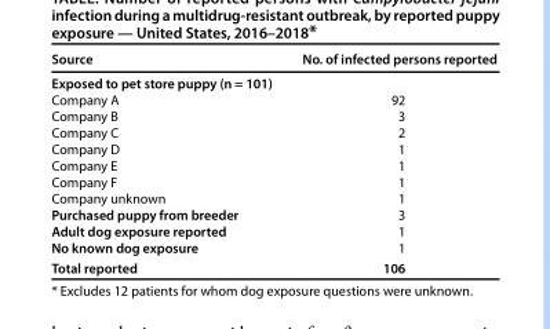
<table><thead><tr><td>Source</td><td>No. of infected persons reported</td></tr></thead><tbody><tr><td colspan="2">Exposed to pet store puppy (n = 101)</td></tr><tr><td>Company A</td><td>92</td></tr><tr><td>Company B</td><td>3</td></tr><tr><td>Company C</td><td>2</td></tr><tr><td>Company D</td><td>1</td></tr><tr><td>Company E</td><td>1</td></tr><tr><td>Company F</td><td>1</td></tr><tr><td>Company unknown</td><td>1</td></tr><tr><td>Purchased puppy from breeder</td><td>3</td></tr><tr><td>Adult dog exposure reported</td><td>1</td></tr><tr><td>No known dog exposure</td><td>1</td></tr><tr><td>Total reported</td><td>106</td></tr></tbody></table>